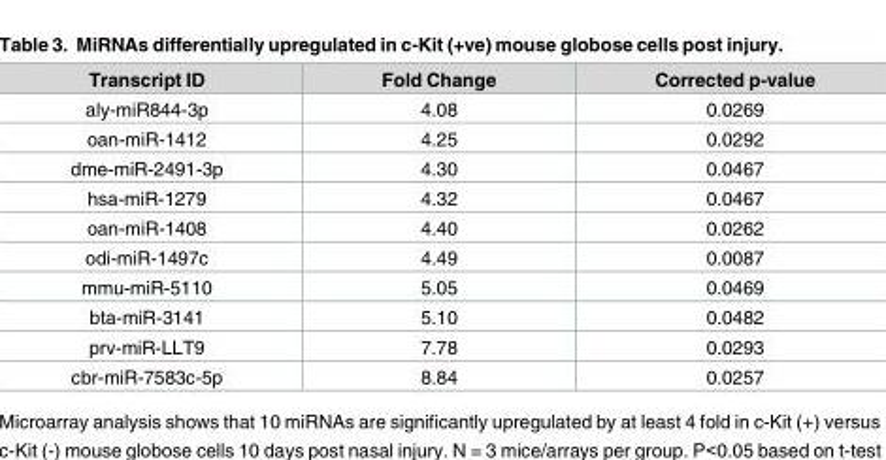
<table><thead><tr><td>Transcript ID</td><td>Fold Change</td><td>Corrected p-value</td></tr></thead><tbody><tr><td>aly-miR844-3p</td><td>4.08</td><td>0.0269</td></tr><tr><td>oan-miR-1412</td><td>4.25</td><td>0.0292</td></tr><tr><td>dme-miR-2491-3p</td><td>4.30</td><td>0.0467</td></tr><tr><td>hsa-miR-1279</td><td>4.32</td><td>0.0467</td></tr><tr><td>oan-miR-1408</td><td>4.40</td><td>0.0262</td></tr><tr><td>odi-miR-1497c</td><td>4.49</td><td>0.0087</td></tr><tr><td>mmu-miR-5110</td><td>5.05</td><td>0.0469</td></tr><tr><td>bta-miR-3141</td><td>5.10</td><td>0.0482</td></tr><tr><td>prv-miR-LLT9</td><td>7.78</td><td>0.0293</td></tr><tr><td>cbr-miR-7583c-5p</td><td>8.84</td><td>0.0257</td></tr></tbody></table>